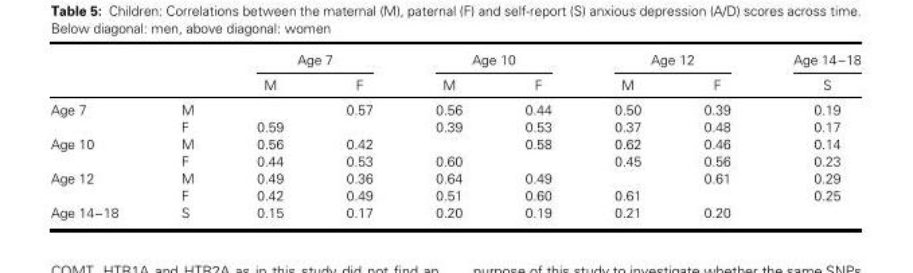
<table><thead><tr><td rowspan="2"></td><td rowspan="2"></td><td colspan="2">Age 7</td><td colspan="2">Age 10</td><td colspan="2">Age 12</td><td rowspan="2">Age 14–18 S</td></tr><tr><td>M</td><td>F</td><td>M</td><td>F</td><td>M</td><td>F</td></tr></thead><tbody><tr><td rowspan="2">Age 7</td><td>M</td><td></td><td>0.57</td><td>0.56</td><td>0.44</td><td>0.50</td><td>0.39</td><td>0.19</td></tr><tr><td>F</td><td>0.59</td><td></td><td>0.39</td><td>0.53</td><td>0.37</td><td>0.48</td><td>0.17</td></tr><tr><td rowspan="2">Age 10</td><td>M</td><td>0.56</td><td>0.42</td><td></td><td>0.58</td><td>0.62</td><td>0.46</td><td>0.14</td></tr><tr><td>F</td><td>0.44</td><td>0.53</td><td>0.60</td><td></td><td>0.45</td><td>0.56</td><td>0.23</td></tr><tr><td rowspan="2">Age 12</td><td>M</td><td>0.49</td><td>0.36</td><td>0.64</td><td>0.49</td><td></td><td>0.61</td><td>0.29</td></tr><tr><td>F</td><td>0.42</td><td>0.49</td><td>0.51</td><td>0.60</td><td>0.61</td><td></td><td>0.25</td></tr><tr><td>Age 14–18</td><td>S</td><td>0.15</td><td>0.17</td><td>0.20</td><td>0.19</td><td>0.21</td><td>0.20</td><td></td></tr></tbody></table>